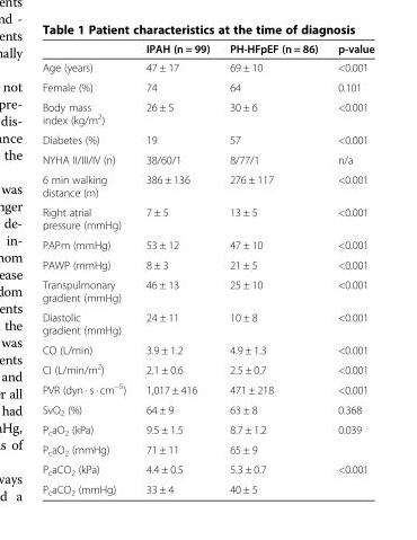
<table><thead><tr><td></td><td>IPAH (n = 99)</td><td>PH-HFpEF (n = 86)</td><td>p-value</td></tr></thead><tbody><tr><td>Age (years)</td><td>47 ± 17</td><td>69 ± 10</td><td>&lt;0.001</td></tr><tr><td>Female (%)</td><td>74</td><td>64</td><td>0.101</td></tr><tr><td>Body mass index (kg/m<sup>2</sup>)</td><td>26 ± 5</td><td>30 ± 6</td><td>&lt;0.001</td></tr><tr><td>Diabetes (%)</td><td>19</td><td>57</td><td>&lt;0.001</td></tr><tr><td>NYHA II/III/IV (n)</td><td>38/60/1</td><td>8/77/1</td><td>n/a</td></tr><tr><td>6 min walking distance (m)</td><td>386 ± 136</td><td>276 ± 117</td><td>&lt;0.001</td></tr><tr><td>Right atrial pressure (mmHg)</td><td>7 ± 5</td><td>13 ± 5</td><td>&lt;0.001</td></tr><tr><td>PAPm (mmHg)</td><td>53 ± 12</td><td>47 ± 10</td><td>&lt;0.001</td></tr><tr><td>PAWP (mmHg)</td><td>8 ± 3</td><td>21 ± 5</td><td>&lt;0.001</td></tr><tr><td>Transpulmonary gradient (mmHg)</td><td>46 ± 13</td><td>25 ± 10</td><td>&lt;0.001</td></tr><tr><td>Diastolic gradient (mmHg)</td><td>24 ± 11</td><td>10 ± 8</td><td>&lt;0.001</td></tr><tr><td>CO (L/min)</td><td>3.9 ± 1.2</td><td>4.9 ± 1.3</td><td>&lt;0.001</td></tr><tr><td>CI (L/min/m<sup>2</sup>)</td><td>2.1 ± 0.6</td><td>2.5 ± 0.7</td><td>&lt;0.001</td></tr><tr><td>PVR (dyn · s · cm<sup>−5</sup>)</td><td>1,017 ± 416</td><td>471 ± 218</td><td>&lt;0.001</td></tr><tr><td>SvO<sub>2</sub> (%)</td><td>64 ± 9</td><td>63 ± 8</td><td>0.368</td></tr><tr><td>P<sub>c</sub>aO<sub>2</sub> (kPa)</td><td>9.5 ± 1.5</td><td>8.7 ± 1.2</td><td rowspan="2">0.039</td></tr><tr><td>P<sub>c</sub>aO<sub>2</sub> (mmHg)</td><td>71 ± 11</td><td>65 ± 9</td></tr><tr><td>P<sub>c</sub>aCO<sub>2</sub> (kPa)</td><td>4.4 ± 0.5</td><td>5.3 ± 0.7</td><td rowspan="2">&lt;0.001</td></tr><tr><td>P<sub>c</sub>aCO<sub>2</sub> (mmHg)</td><td>33 ± 4</td><td>40 ± 5</td></tr></tbody></table>